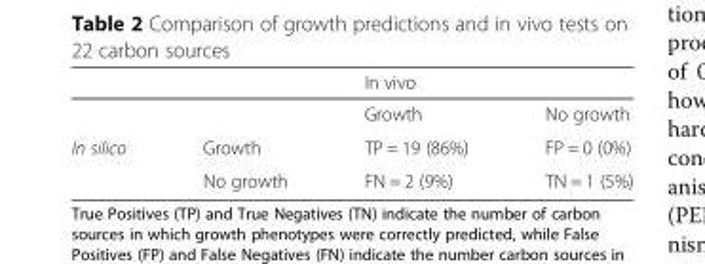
<table><thead><tr><td rowspan="2"></td><td rowspan="2"></td><td colspan="2">In vivo</td></tr><tr><td>Growth</td><td>No growth</td></tr></thead><tbody><tr><td rowspan="2">In silico</td><td>Growth</td><td>TP = 19 (86%)</td><td>FP = 0 (0%)</td></tr><tr><td>No growth</td><td>FN = 2 (9%)</td><td>TN = 1 (5%)</td></tr></tbody></table>